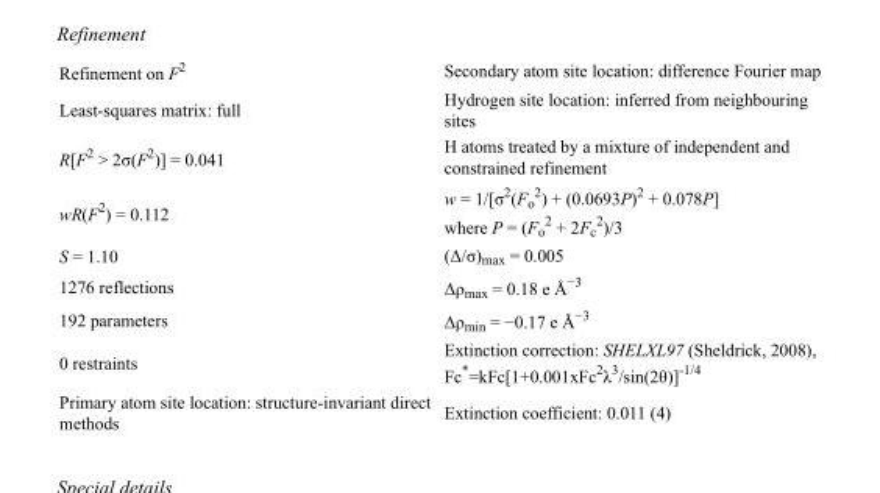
<table><tbody><tr><td>Refinement on F<sup>2</sup></td><td>Secondary atom site location: difference Fourier map</td></tr><tr><td>Least-squares matrix: full</td><td>Hydrogen site location: inferred from neighbouring sites</td></tr><tr><td>R[F<sup>2</sup> &gt; 2σ(F<sup>2</sup>)] = 0.041</td><td>H atoms treated by a mixture of independent and constrained refinement</td></tr><tr><td>wR(F<sup>2</sup>) = 0.112</td><td>w = 1/[σ<sup>2</sup>(F<sub>o</sub> <sup>2</sup>) + (0.0693P)<sup>2</sup> + 0.078P] where P = (F<sub>o</sub> <sup>2</sup> + 2F<sub>c</sub> <sup>2</sup>)/3</td></tr><tr><td>S = 1.10</td><td>(Δ/σ)<sub>max</sub> = 0.005</td></tr><tr><td>1276 reflections</td><td>Δρ<sub>max</sub> = 0.18 e Å<sup>−3</sup></td></tr><tr><td>192 parameters</td><td>Δρ<sub>min</sub> = −0.17 e Å<sup>−3</sup></td></tr><tr><td>0 restraints</td><td>Extinction correction: SHELXL97 (Sheldrick, 2008), Fc*=kFc[1+0.001xFc<sup>2</sup>λ<sup>3</sup>/sin(2θ)]<sup>-1/4</sup></td></tr><tr><td>Primary atom site location: structure-invariant direct methods</td><td>Extinction coefficient: 0.011 (4)</td></tr></tbody></table>